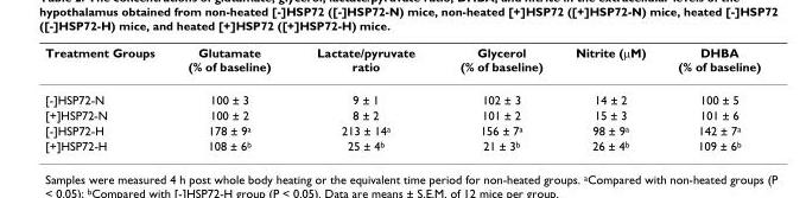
<table><thead><tr><td>Treatment Groups</td><td>Glutamate (% of baseline)</td><td>Lactate/pyruvate ratio</td><td>Glycerol (% of baseline)</td><td>Nitrite (μM)</td><td>DHBA (% of baseline)</td></tr></thead><tbody><tr><td>[-]HSP72-N</td><td>100 ± 3</td><td>9 ± 1</td><td>102 ± 3</td><td>14 ± 2</td><td>100 ± 5</td></tr><tr><td>[+]HSP72-N</td><td>100 ± 2</td><td>8 ± 2</td><td>101 ± 2</td><td>15 ± 3</td><td>101 ± 6</td></tr><tr><td>[-]HSP72-H</td><td>178 ± 9<sup>a</sup></td><td>213 ± 14<sup>a</sup></td><td>156 ± 7<sup>a</sup></td><td>98 ± 9<sup>a</sup></td><td>142 ± 7<sup>a</sup></td></tr><tr><td>[+]HSP72-H</td><td>108 ± 6<sup>b</sup></td><td>25 ± 4<sup>b</sup></td><td>21 ± 3<sup>b</sup></td><td>26 ± 4<sup>b</sup></td><td>109 ± 6<sup>b</sup></td></tr></tbody></table>